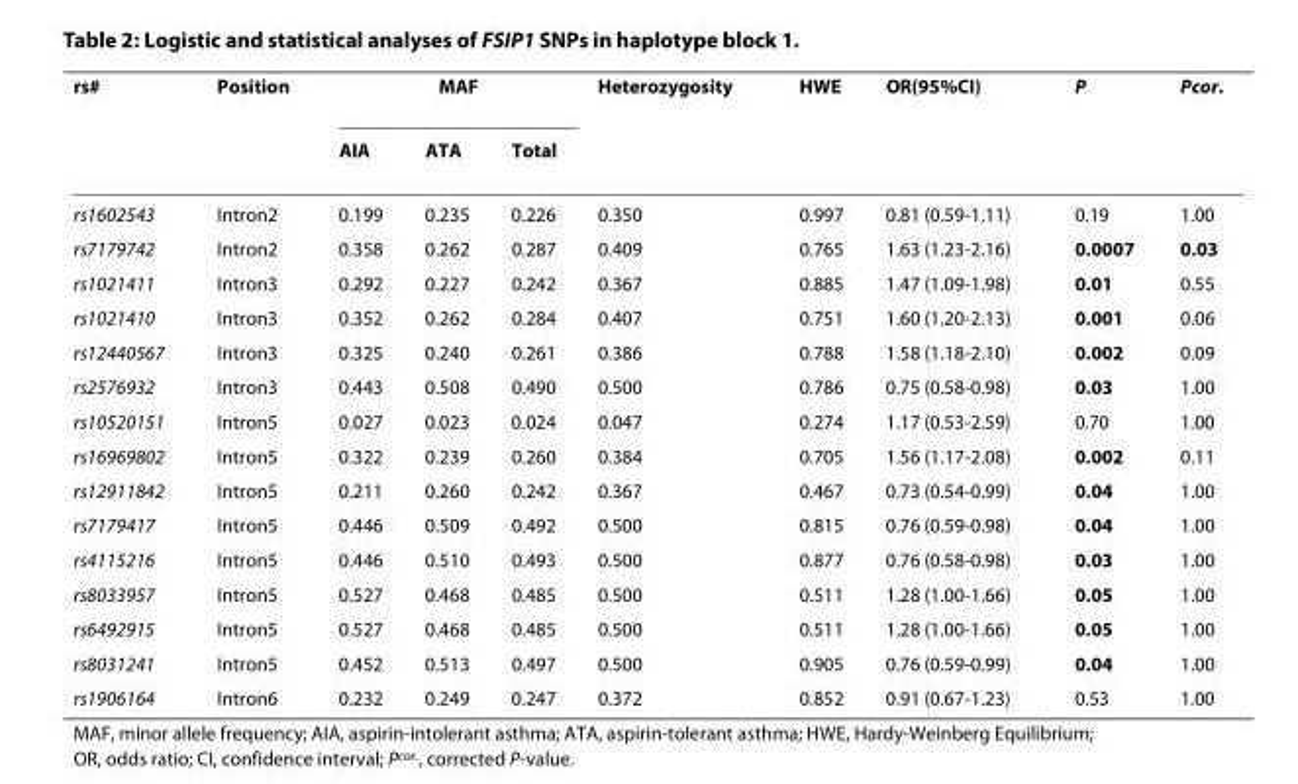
<table><thead><tr><td rowspan="2">rs#</td><td rowspan="2">Position</td><td colspan="3">MAF</td><td rowspan="2">Heterozygosity</td><td rowspan="2">HWE</td><td rowspan="2">OR(95%CI)</td><td rowspan="2">P</td><td rowspan="2">P<sup>cor.</sup></td></tr><tr><td>AIA</td><td>ATA</td><td>Total</td></tr></thead><tbody><tr><td>rs1602543</td><td>Intron2</td><td>0.199</td><td>0.235</td><td>0.226</td><td>0.350</td><td>0.997</td><td>0.81 (0.59-1.11)</td><td>0.19</td><td>1.00</td></tr><tr><td>rs7179742</td><td>Intron2</td><td>0.358</td><td>0.262</td><td>0.287</td><td>0.409</td><td>0.765</td><td>1.63 (1.23-2.16)</td><td>0.0007</td><td>0.03</td></tr><tr><td>rs1021411</td><td>Intron3</td><td>0.292</td><td>0.227</td><td>0.242</td><td>0.367</td><td>0.885</td><td>1.47 (1.09-1.98)</td><td>0.01</td><td>0.55</td></tr><tr><td>rs1021410</td><td>Intron3</td><td>0.352</td><td>0.262</td><td>0.284</td><td>0.407</td><td>0.751</td><td>1.60 (1.20-2.13)</td><td>0.001</td><td>0.06</td></tr><tr><td>rs12440567</td><td>Intron3</td><td>0.325</td><td>0.240</td><td>0.261</td><td>0.386</td><td>0.788</td><td>1.58 (1.18-2.10)</td><td>0.002</td><td>0.09</td></tr><tr><td>rs2576932</td><td>Intron3</td><td>0.443</td><td>0.508</td><td>0.490</td><td>0.500</td><td>0.786</td><td>0.75 (0.58-0.98)</td><td>0.03</td><td>1.00</td></tr><tr><td>rs10520151</td><td>Intron5</td><td>0.027</td><td>0.023</td><td>0.024</td><td>0.047</td><td>0.274</td><td>1.17 (0.53-2.59)</td><td>0.70</td><td>1.00</td></tr><tr><td>rs16969802</td><td>Intron5</td><td>0.322</td><td>0.239</td><td>0.260</td><td>0.384</td><td>0.705</td><td>1.56 (1.17-2.08)</td><td>0.002</td><td>0.11</td></tr><tr><td>rs12911842</td><td>Intron5</td><td>0.211</td><td>0.260</td><td>0.242</td><td>0.367</td><td>0.467</td><td>0.73 (0.54-0.99)</td><td>0.04</td><td>1.00</td></tr><tr><td>rs7179417</td><td>Intron5</td><td>0.446</td><td>0.509</td><td>0.492</td><td>0.500</td><td>0.815</td><td>0.76 (0.59-0.98)</td><td>0.04</td><td>1.00</td></tr><tr><td>rs4115216</td><td>Intron5</td><td>0.446</td><td>0.510</td><td>0.493</td><td>0.500</td><td>0.877</td><td>0.76 (0.58-0.98)</td><td>0.03</td><td>1.00</td></tr><tr><td>rs8033957</td><td>Intron5</td><td>0.527</td><td>0.468</td><td>0.485</td><td>0.500</td><td>0.511</td><td>1.28 (1.00-1.66)</td><td>0.05</td><td>1.00</td></tr><tr><td>rs6492915</td><td>Intron5</td><td>0.527</td><td>0.468</td><td>0.485</td><td>0.500</td><td>0.511</td><td>1.28 (1.00-1.66)</td><td>0.05</td><td>1.00</td></tr><tr><td>rs8031241</td><td>Intron5</td><td>0.452</td><td>0.513</td><td>0.497</td><td>0.500</td><td>0.905</td><td>0.76 (0.59-0.99)</td><td>0.04</td><td>1.00</td></tr><tr><td>rs1906164</td><td>Intron6</td><td>0.232</td><td>0.249</td><td>0.247</td><td>0.372</td><td>0.852</td><td>0.91 (0.67-1.23)</td><td>0.53</td><td>1.00</td></tr></tbody></table>